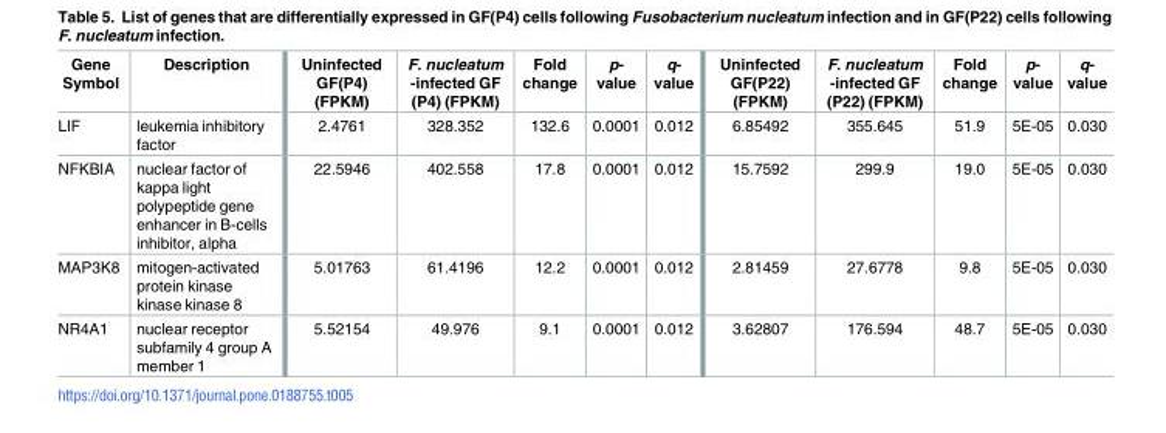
<table><thead><tr><td>Gene Symbol</td><td>Description</td><td>Uninfected GF(P4) (FPKM)</td><td>F. nucleatum -infected GF (P4) (FPKM)</td><td>Fold change</td><td>p- value</td><td>q- value</td><td>Uninfected GF(P22) (FPKM)</td><td>F. nucleatum -infected GF (P22) (FPKM)</td><td>Fold change</td><td>p- value</td><td>q- value</td></tr></thead><tbody><tr><td>LIF</td><td>leukemia inhibitory factor</td><td>2.4761</td><td>328.352</td><td>132.6</td><td>0.0001</td><td>0.012</td><td>6.85492</td><td>355.645</td><td>51.9</td><td>5E-05</td><td>0.030</td></tr><tr><td>NFKBIA</td><td>nuclear factor of kappa light polypeptide gene enhancer in B-cells inhibitor, alpha</td><td>22.5946</td><td>402.558</td><td>17.8</td><td>0.0001</td><td>0.012</td><td>15.7592</td><td>299.9</td><td>19.0</td><td>5E-05</td><td>0.030</td></tr><tr><td>MAP3K8</td><td>mitogen-activated protein kinase kinase kinase 8</td><td>5.01763</td><td>61.4196</td><td>12.2</td><td>0.0001</td><td>0.012</td><td>2.81459</td><td>27.6778</td><td>9.8</td><td>5E-05</td><td>0.030</td></tr><tr><td>NR4A1</td><td>nuclear receptor subfamily 4 group A member 1</td><td>5.52154</td><td>49.976</td><td>9.1</td><td>0.0001</td><td>0.012</td><td>3.62807</td><td>176.594</td><td>48.7</td><td>5E-05</td><td>0.030</td></tr></tbody></table>